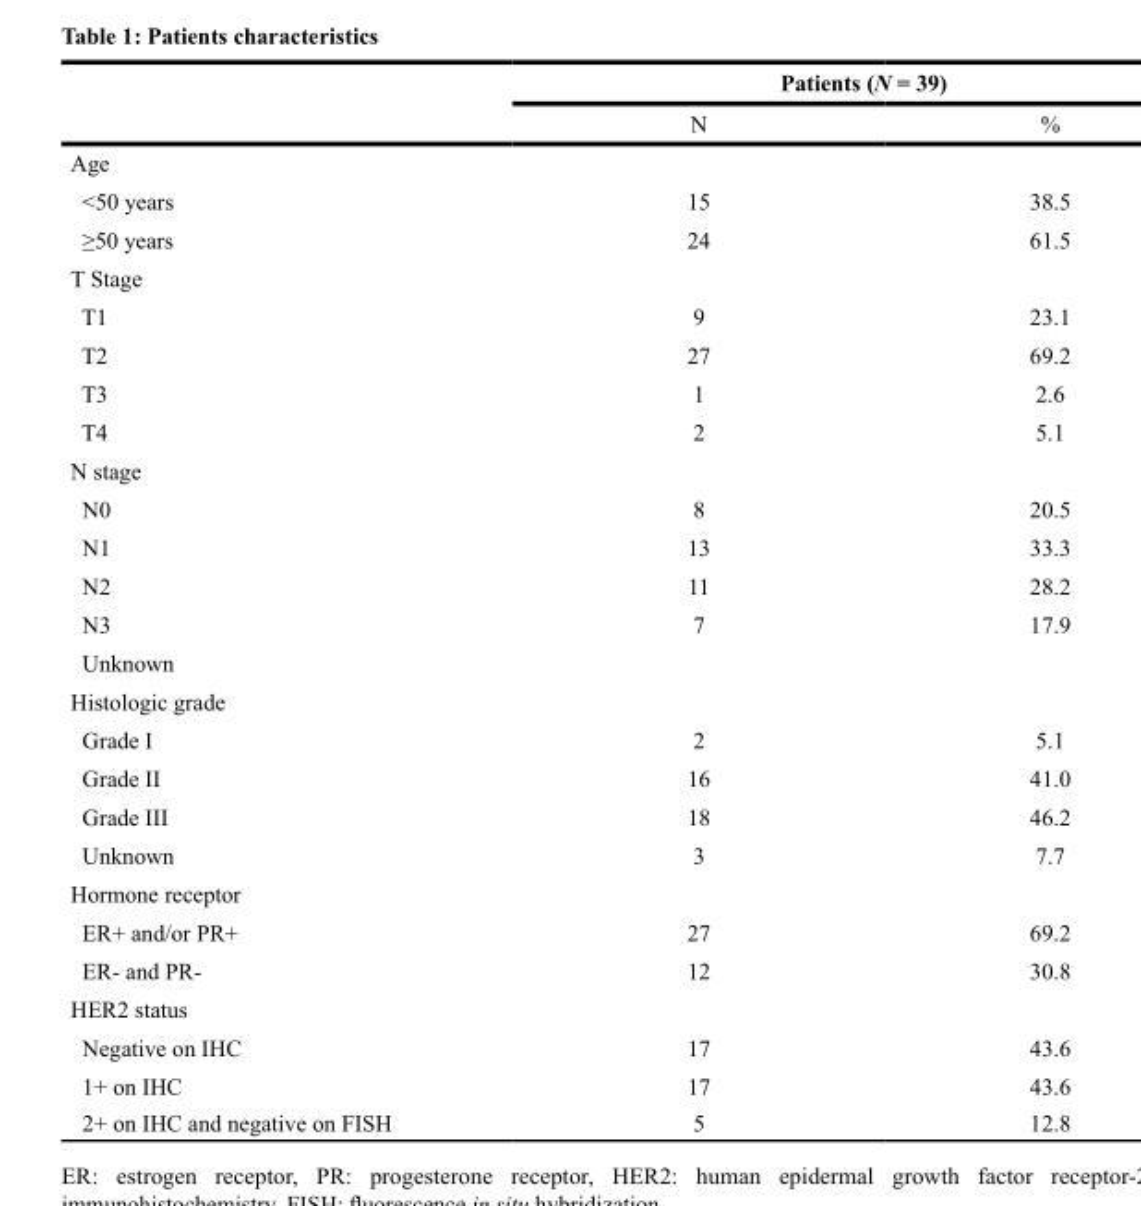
<table><thead><tr><td rowspan="2"></td><td colspan="2">Patients (N = 39)</td></tr><tr><td>N</td><td>%</td></tr></thead><tbody><tr><td colspan="3">Age</td></tr><tr><td>&lt;50 years</td><td>15</td><td>38.5</td></tr><tr><td>≥50 years</td><td>24</td><td>61.5</td></tr><tr><td colspan="3">T Stage</td></tr><tr><td>T1</td><td>9</td><td>23.1</td></tr><tr><td>T2</td><td>27</td><td>69.2</td></tr><tr><td>T3</td><td>1</td><td>2.6</td></tr><tr><td>T4</td><td>2</td><td>5.1</td></tr><tr><td colspan="3">N stage</td></tr><tr><td>N0</td><td>8</td><td>20.5</td></tr><tr><td>N1</td><td>13</td><td>33.3</td></tr><tr><td>N2</td><td>11</td><td>28.2</td></tr><tr><td>N3</td><td>7</td><td>17.9</td></tr><tr><td colspan="3">Unknown</td></tr><tr><td colspan="3">Histologic grade</td></tr><tr><td>Grade I</td><td>2</td><td>5.1</td></tr><tr><td>Grade II</td><td>16</td><td>41.0</td></tr><tr><td>Grade III</td><td>18</td><td>46.2</td></tr><tr><td>Unknown</td><td>3</td><td>7.7</td></tr><tr><td colspan="3">Hormone receptor</td></tr><tr><td>ER+ and/or PR+</td><td>27</td><td>69.2</td></tr><tr><td>ER- and PR-</td><td>12</td><td>30.8</td></tr><tr><td colspan="3">HER2 status</td></tr><tr><td>Negative on IHC</td><td>17</td><td>43.6</td></tr><tr><td>1+ on IHC</td><td>17</td><td>43.6</td></tr><tr><td>2+ on IHC and negative on FISH</td><td>5</td><td>12.8</td></tr></tbody></table>